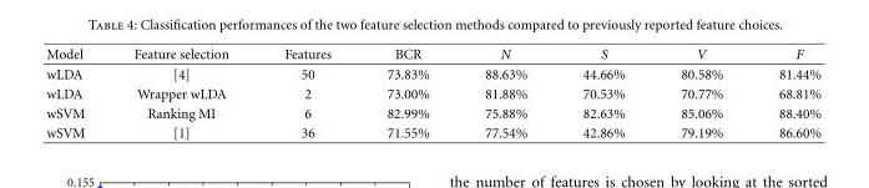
<table><thead><tr><td>Model</td><td>Feature selection</td><td>Features</td><td>BCR</td><td>N</td><td>S</td><td>V</td><td>F</td></tr></thead><tbody><tr><td>wLDA</td><td>[4]</td><td>50</td><td>73.83%</td><td>88.63%</td><td>44.66%</td><td>80.58%</td><td>81.44%</td></tr><tr><td>wLDA</td><td>Wrapper wLDA</td><td>2</td><td>73.00%</td><td>81.88%</td><td>70.53%</td><td>70.77%</td><td>68.81%</td></tr><tr><td>wSVM</td><td>Ranking MI</td><td>6</td><td>82.99%</td><td>75.88%</td><td>82.63%</td><td>85.06%</td><td>88.40%</td></tr><tr><td>wSVM</td><td>[1]</td><td>36</td><td>71.55%</td><td>77.54%</td><td>42.86%</td><td>79.19%</td><td>86.60%</td></tr></tbody></table>